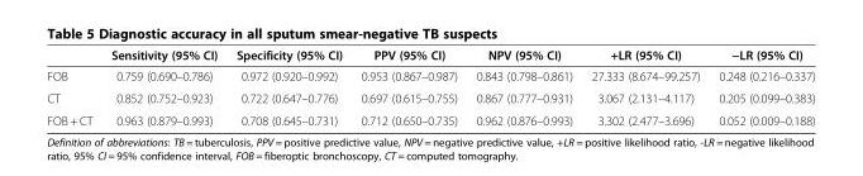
<table><thead><tr><td></td><td>Sensitivity (95% CI)</td><td>Specificity (95% CI)</td><td>PPV (95% CI)</td><td>NPV (95% CI)</td><td>+LR (95% CI)</td><td>−LR (95% CI)</td></tr></thead><tbody><tr><td>FOB</td><td>0.759 (0.690–0.786)</td><td>0.972 (0.920–0.992)</td><td>0.953 (0.867–0.987)</td><td>0.843 (0.798–0.861)</td><td>27.333 (8.674–99.257)</td><td>0.248 (0.216–0.337)</td></tr><tr><td>CT</td><td>0.852 (0.752–0.923)</td><td>0.722 (0.647–0.776)</td><td>0.697 (0.615–0.755)</td><td>0.867 (0.777–0.931)</td><td>3.067 (2.131–4.117)</td><td>0.205 (0.099–0.383)</td></tr><tr><td>FOB + CT</td><td>0.963 (0.879–0.993)</td><td>0.708 (0.645–0.731)</td><td>0.712 (0.650–0.735)</td><td>0.962 (0.876–0.993)</td><td>3.302 (2.477–3.696)</td><td>0.052 (0.009–0.188)</td></tr></tbody></table>